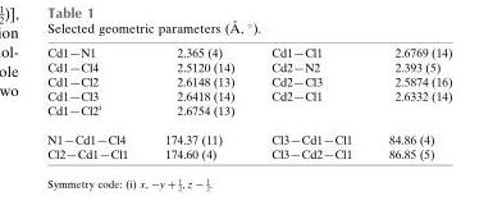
<table><tbody><tr><td>Cd1—N1</td><td>2.365 (4)</td><td>Cd1—Cl1</td><td>2.6769 (14)</td></tr><tr><td>Cd1—Cl4</td><td>2.5120 (14)</td><td>Cd2—N2</td><td>2.393 (5)</td></tr><tr><td>Cd1—Cl2</td><td>2.6148 (13)</td><td>Cd2—Cl3</td><td>2.5874 (16)</td></tr><tr><td>Cd1—Cl3</td><td>2.6418 (14)</td><td>Cd2—Cl1</td><td>2.6332 (14)</td></tr><tr><td>Cd1—Cl2<sup>i</sup></td><td>2.6754 (13)</td><td></td><td></td></tr><tr><td>N1—Cd1—Cl4</td><td>174.37 (11)</td><td>Cl3—Cd1—Cl1</td><td>84.86 (4)</td></tr><tr><td>Cl2—Cd1—Cl1</td><td>174.60 (4)</td><td>Cl3—Cd2—Cl1</td><td>86.85 (5)</td></tr></tbody></table>